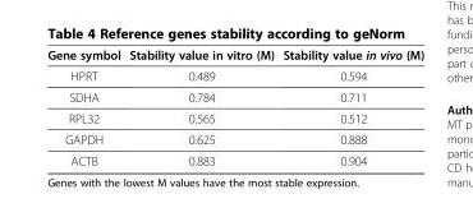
<table><thead><tr><td>Gene symbol</td><td>Stability value in vitro (M)</td><td>Stability value in vivo (M)</td></tr></thead><tbody><tr><td>HPRT</td><td>0.489</td><td>0.594</td></tr><tr><td>SDHA</td><td>0.784</td><td>0.711</td></tr><tr><td>RPL32</td><td>0.565</td><td>0.512</td></tr><tr><td>GAPDH</td><td>0.625</td><td>0.888</td></tr><tr><td>ACTB</td><td>0.883</td><td>0.904</td></tr></tbody></table>